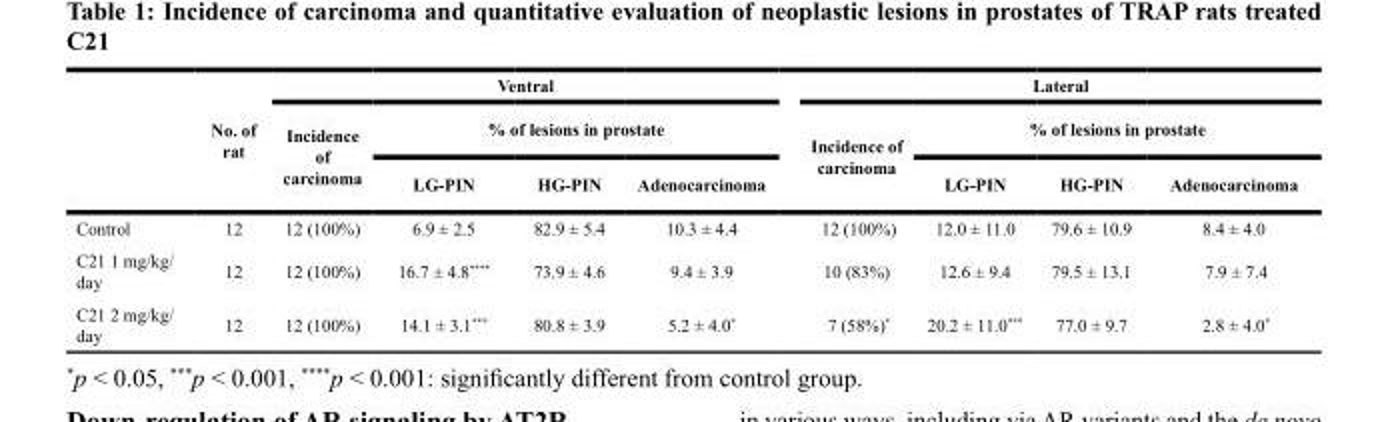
<table><thead><tr><td rowspan="3"></td><td rowspan="3">No. of rat</td><td colspan="4">Ventral</td><td colspan="4">Lateral</td></tr><tr><td rowspan="2">Incidence of carcinoma</td><td colspan="3">% of lesions in prostate</td><td rowspan="2">Incidence of carcinoma</td><td colspan="3">% of lesions in prostate</td></tr><tr><td>LG-PIN</td><td>HG-PIN</td><td>Adenocarcinoma</td><td>LG-PIN</td><td>HG-PIN</td><td>Adenocarcinoma</td></tr></thead><tbody><tr><td>Control</td><td>12</td><td>12 (100%)</td><td>6.9 ± 2.5</td><td>82.9 ± 5.4</td><td>10.3 ± 4.4</td><td>12 (100%)</td><td>12.0 ± 11.0</td><td>79.6 ± 10.9</td><td>8.4 ± 4.0</td></tr><tr><td>C21 1 mg/kg/ day</td><td>12</td><td>12 (100%)</td><td>16.7 ± 4.8****</td><td>73.9 ± 4.6</td><td>9.4 ± 3.9</td><td>10 (83%)</td><td>12.6 ± 9.4</td><td>79.5 ± 13.1</td><td>7.9 ± 7.4</td></tr><tr><td>C21 2 mg/kg/ day</td><td>12</td><td>12 (100%)</td><td>14.1 ± 3.1***</td><td>80.8 ± 3.9</td><td>5.2 ± 4.0*</td><td>7 (58%)*</td><td>20.2 ± 11.0***</td><td>77.0 ± 9.7</td><td>2.8 ± 4.0*</td></tr></tbody></table>